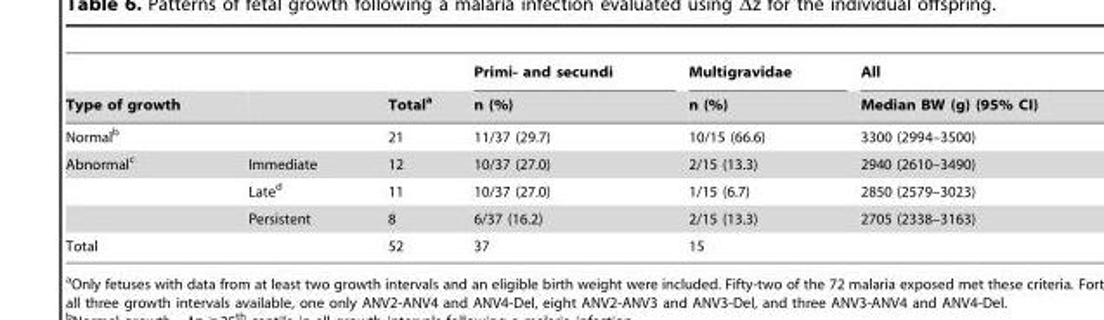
<table><thead><tr><td rowspan="2">Type of growth</td><td rowspan="2"></td><td rowspan="2">Total<sup>a</sup></td><td rowspan="2">Primi- and secundi n (%)</td><td rowspan="2">Multigravidae n (%)</td><td rowspan="2">All Median BW (g) (95% CI)</td></tr><tr></tr></thead><tbody><tr><td>Normal<sup>b</sup></td><td></td><td>21</td><td>11/37 (29.7)</td><td>10/15 (66.6)</td><td>3300 (2994–3500)</td></tr><tr><td rowspan="3">Abnormal<sup>c</sup></td><td>Immediate</td><td>12</td><td>10/37 (27.0)</td><td>2/15 (13.3)</td><td>2940 (2610–3490)</td></tr><tr><td>Late<sup>d</sup></td><td>11</td><td>10/37 (27.0)</td><td>1/15 (6.7)</td><td>2850 (2579–3023)</td></tr><tr><td>Persistent</td><td>8</td><td>6/37 (16.2)</td><td>2/15 (13.3)</td><td>2705 (2338–3163)</td></tr><tr><td>Total</td><td></td><td>52</td><td>37</td><td>15</td><td></td></tr></tbody></table>